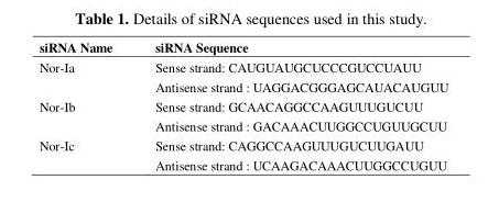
<table><thead><tr><td>siRNA Name</td><td>siRNA Sequence</td></tr></thead><tbody><tr><td rowspan="2">Nor-Ia</td><td>Sense strand: CAUGUAUGCUCCCGUCCUAUU</td></tr><tr><td>Antisense strand : UAGGACGGGAGCAUACAUGUU</td></tr><tr><td rowspan="2">Nor-Ib</td><td>Sense strand: GCAACAGGCCAAGUUUGUCUU</td></tr><tr><td>Antisense strand : GACAAACUUGGCCUGUUGCUU</td></tr><tr><td rowspan="2">Nor-Ic</td><td>Sense strand: CAGGCCAAGUUUGUCUUGAUU</td></tr><tr><td>Antisense strand : UCAAGACAAACUUGGCCUGUU</td></tr></tbody></table>